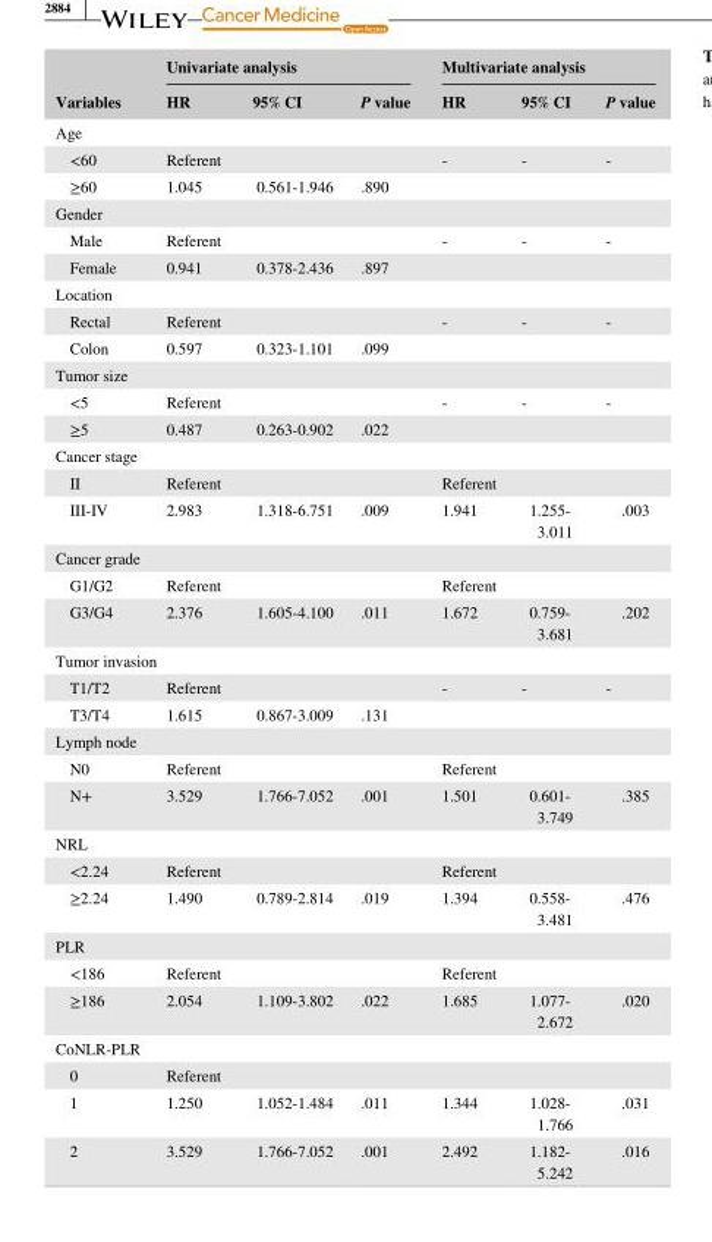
<table><thead><tr><td rowspan="2">Variables</td><td colspan="3">Univariate analysis</td><td colspan="3">Multivariate analysis</td></tr><tr><td>HR</td><td>95% CI</td><td>P value</td><td>HR</td><td>95% CI</td><td>P value</td></tr></thead><tbody><tr><td colspan="7">Age</td></tr><tr><td>&lt;60</td><td>Referent</td><td></td><td></td><td>-</td><td>-</td><td>-</td></tr><tr><td>≥60</td><td>1.045</td><td>0.561- 1.946</td><td>.890</td><td></td><td></td><td></td></tr><tr><td colspan="7">Gender</td></tr><tr><td>Male</td><td>Referent</td><td></td><td></td><td>-</td><td>-</td><td>-</td></tr><tr><td>Female</td><td>0.941</td><td>0.378- 2.436</td><td>.897</td><td></td><td></td><td></td></tr><tr><td colspan="7">Location</td></tr><tr><td>Rectal</td><td>Referent</td><td></td><td></td><td>-</td><td>-</td><td>-</td></tr><tr><td>Colon</td><td>0.597</td><td>0.323- 1.101</td><td>.099</td><td></td><td></td><td></td></tr><tr><td colspan="7">Tumor size</td></tr><tr><td>&lt;5</td><td>Referent</td><td></td><td></td><td>-</td><td>-</td><td>-</td></tr><tr><td>≥5</td><td>0.487</td><td>0.263- 0.902</td><td>.022</td><td></td><td></td><td></td></tr><tr><td colspan="7">Cancer stage</td></tr><tr><td>II</td><td>Referent</td><td></td><td></td><td>Referent</td><td></td><td></td></tr><tr><td>III- IV</td><td>2.983</td><td>1.318- 6.751</td><td>.009</td><td>1.941</td><td>1.255- 3.011</td><td>.003</td></tr><tr><td colspan="7">Cancer grade</td></tr><tr><td>G1/G2</td><td>Referent</td><td></td><td></td><td>Referent</td><td></td><td></td></tr><tr><td>G3/G4</td><td>2.376</td><td>1.605- 4.100</td><td>.011</td><td>1.672</td><td>0.759- 3.681</td><td>.202</td></tr><tr><td colspan="7">Tumor invasion</td></tr><tr><td>T1/T2</td><td>Referent</td><td></td><td></td><td>-</td><td>-</td><td>-</td></tr><tr><td>T3/T4</td><td>1.615</td><td>0.867- 3.009</td><td>.131</td><td></td><td></td><td></td></tr><tr><td colspan="7">Lymph node</td></tr><tr><td>N0</td><td>Referent</td><td></td><td></td><td>Referent</td><td></td><td></td></tr><tr><td>N+</td><td>3.529</td><td>1.766- 7.052</td><td>.001</td><td>1.501</td><td>0.601- 3.749</td><td>.385</td></tr><tr><td colspan="7">NRL</td></tr><tr><td>&lt;2.24</td><td>Referent</td><td></td><td></td><td>Referent</td><td></td><td></td></tr><tr><td>≥2.24</td><td>1.490</td><td>0.789- 2.814</td><td>.019</td><td>1.394</td><td>0.558- 3.481</td><td>.476</td></tr><tr><td colspan="7">PLR</td></tr><tr><td>&lt;186</td><td>Referent</td><td></td><td></td><td>Referent</td><td></td><td></td></tr><tr><td>≥186</td><td>2.054</td><td>1.109- 3.802</td><td>.022</td><td>1.685</td><td>1.077- 2.672</td><td>.020</td></tr><tr><td colspan="7">CoNLR- PLR</td></tr><tr><td>0</td><td>Referent</td><td></td><td></td><td></td><td></td><td></td></tr><tr><td>1</td><td>1.250</td><td>1.052- 1.484</td><td>.011</td><td>1.344</td><td>1.028- 1.766</td><td>.031</td></tr><tr><td>2</td><td>3.529</td><td>1.766- 7.052</td><td>.001</td><td>2.492</td><td>1.182- 5.242</td><td>.016</td></tr></tbody></table>